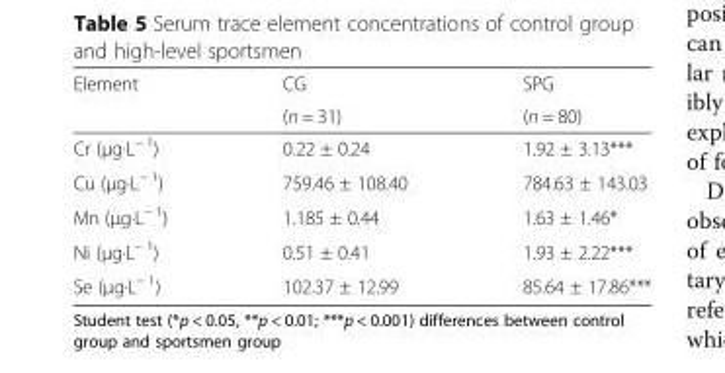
<table><thead><tr><td rowspan="2">Element</td><td rowspan="2">CG (n = 31)</td><td rowspan="2">SPG (n = 80)</td></tr><tr></tr></thead><tbody><tr><td>Cr (μg·L<sup>− 1</sup>)</td><td>0.22 ± 0.24</td><td>1.92 ± 3.13***</td></tr><tr><td>Cu (μg·L<sup>− 1</sup>)</td><td>759.46 ± 108.40</td><td>784.63 ± 143.03</td></tr><tr><td>Mn (μg·L<sup>− 1</sup>)</td><td>1.185 ± 0.44</td><td>1.63 ± 1.46*</td></tr><tr><td>Ni (μg·L<sup>− 1</sup>)</td><td>0.51 ± 0.41</td><td>1.93 ± 2.22***</td></tr><tr><td>Se (μg·L<sup>− 1</sup>)</td><td>102.37 ± 12.99</td><td>85.64 ± 17.86***</td></tr></tbody></table>